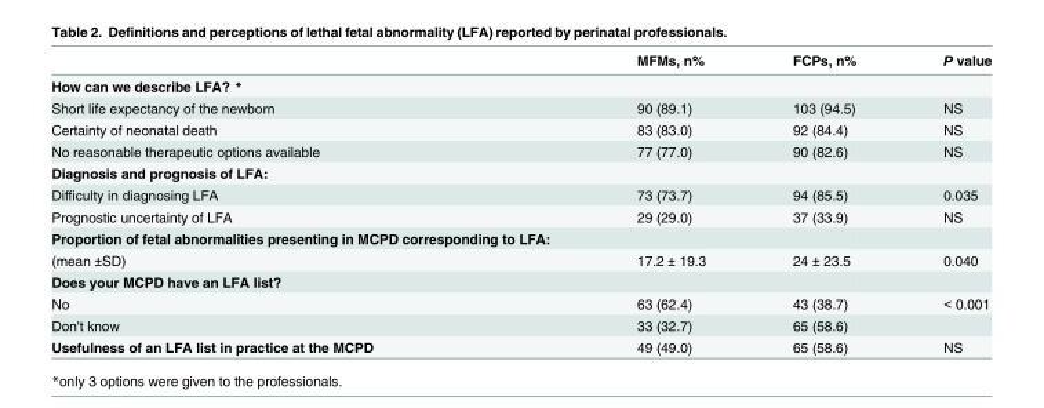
<table><thead><tr><td></td><td>MFMs, n%</td><td>FCPs, n%</td><td>P value</td></tr></thead><tbody><tr><td colspan="4">How can we describe LFA? *</td></tr><tr><td>Short life expectancy of the newborn</td><td>90 (89.1)</td><td>103 (94.5)</td><td>NS</td></tr><tr><td>Certainty of neonatal death</td><td>83 (83.0)</td><td>92 (84.4)</td><td>NS</td></tr><tr><td>No reasonable therapeutic options available</td><td>77 (77.0)</td><td>90 (82.6)</td><td>NS</td></tr><tr><td colspan="4">Diagnosis and prognosis of LFA:</td></tr><tr><td>Difficulty in diagnosing LFA</td><td>73 (73.7)</td><td>94 (85.5)</td><td>0.035</td></tr><tr><td>Prognostic uncertainty of LFA</td><td>29 (29.0)</td><td>37 (33.9)</td><td>NS</td></tr><tr><td colspan="4">Proportion of fetal abnormalities presenting in MCPD corresponding to LFA:</td></tr><tr><td>(mean ±SD)</td><td>17.2 ± 19.3</td><td>24 ± 23.5</td><td>0.040</td></tr><tr><td colspan="4">Does your MCPD have an LFA list?</td></tr><tr><td>No</td><td>63 (62.4)</td><td>43 (38.7)</td><td>&lt; 0.001</td></tr><tr><td>Don&#x27;t know</td><td>33 (32.7)</td><td>65 (58.6)</td><td></td></tr><tr><td>Usefulness of an LFA list in practice at the MCPD</td><td>49 (49.0)</td><td>65 (58.6)</td><td>NS</td></tr></tbody></table>